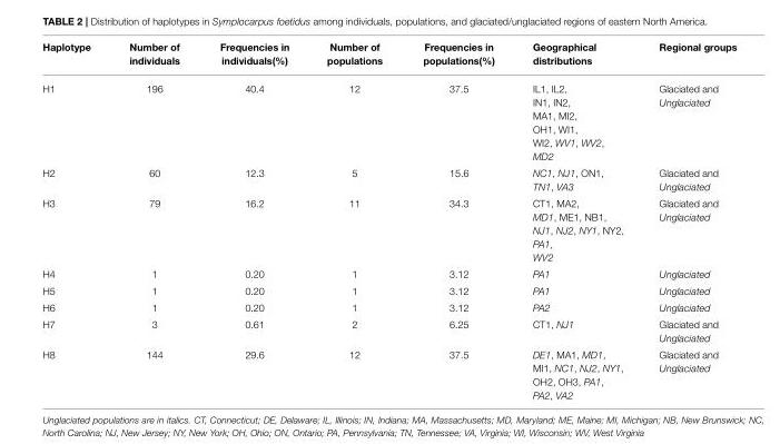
<table><thead><tr><td>Haplotype</td><td>Number of individuals</td><td>Frequencies in individuals(%)</td><td>Number of populations</td><td>Frequencies in populations(%)</td><td>Geographical distributions</td><td>Regional groups</td></tr></thead><tbody><tr><td>H1</td><td>196</td><td>40.4</td><td>12</td><td>37.5</td><td>IL1, IL2, IN1, IN2, MA1, MI2, OH1, WI1, WI2, WV1, WV2, MD2</td><td>Glaciated and Unglaciated</td></tr><tr><td>H2</td><td>60</td><td>12.3</td><td>5</td><td>15.6</td><td>NC1, NJ1, ON1, TN1, VA3</td><td>Glaciated and Unglaciated</td></tr><tr><td>H3</td><td>79</td><td>16.2</td><td>11</td><td>34.3</td><td>CT1, MA2, MD1, ME1, NB1, NJ1, NJ2, NY1, NY2, PA1, WV2</td><td>Glaciated and Unglaciated</td></tr><tr><td>H4</td><td>1</td><td>0.20</td><td>1</td><td>3.12</td><td>PA1</td><td>Unglaciated</td></tr><tr><td>H5</td><td>1</td><td>0.20</td><td>1</td><td>3.12</td><td>PA1</td><td>Unglaciated</td></tr><tr><td>H6</td><td>1</td><td>0.20</td><td>1</td><td>3.12</td><td>PA2</td><td>Unglaciated</td></tr><tr><td>H7</td><td>3</td><td>0.61</td><td>2</td><td>6.25</td><td>CT1, NJ1</td><td>Glaciated and Unglaciated</td></tr><tr><td>H8</td><td>144</td><td>29.6</td><td>12</td><td>37.5</td><td>DE1, MA1, MD1, MI1, NC1, NJ2, NY1, OH2, OH3, PA1, PA2, VA2</td><td>Glaciated and Unglaciated</td></tr></tbody></table>